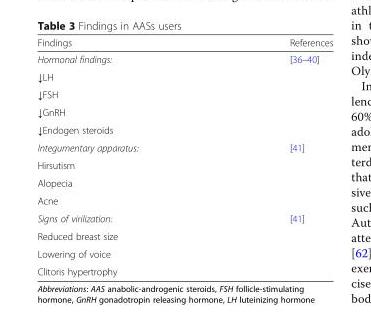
<table><thead><tr><td>Findings</td><td>References</td></tr></thead><tbody><tr><td>Hormonal findings:</td><td rowspan="5">[36–40]</td></tr><tr><td>↓LH</td></tr><tr><td>↓FSH</td></tr><tr><td>↓GnRH</td></tr><tr><td>↓Endogen steroids</td></tr><tr><td>Integumentary apparatus:</td><td rowspan="4">[41]</td></tr><tr><td>Hirsutism</td></tr><tr><td>Alopecia</td></tr><tr><td>Acne</td></tr><tr><td>Signs of virilization:</td><td rowspan="4">[41]</td></tr><tr><td>Reduced breast size</td></tr><tr><td>Lowering of voice</td></tr><tr><td>Clitoris hypertrophy</td></tr></tbody></table>